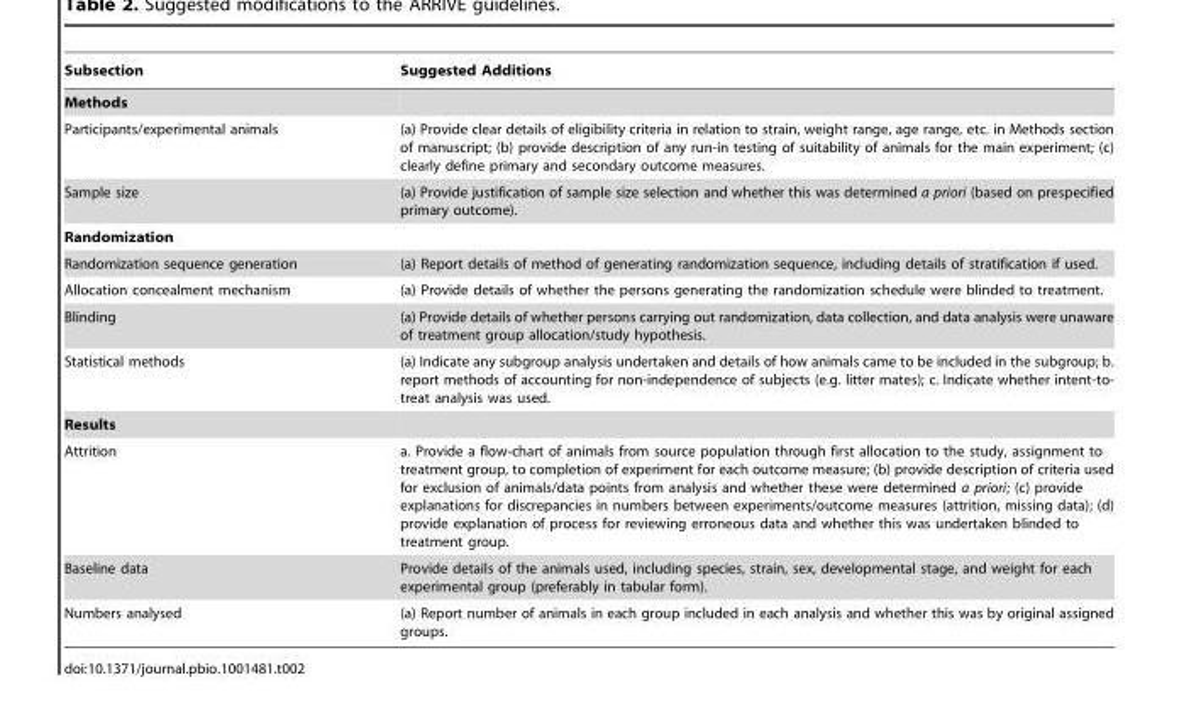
<table><thead><tr><td>Subsection</td><td>Suggested Additions</td></tr></thead><tbody><tr><td colspan="2">Methods</td></tr><tr><td>Participants/experimental animals</td><td>(a) Provide clear details of eligibility criteria in relation to strain, weight range, age range, etc. in Methods section of manuscript; (b) provide description of any run-in testing of suitability of animals for the main experiment; (c) clearly define primary and secondary outcome measures.</td></tr><tr><td>Sample size</td><td>(a) Provide justification of sample size selection and whether this was determined a priori (based on prespecified primary outcome).</td></tr><tr><td colspan="2">Randomization</td></tr><tr><td>Randomization sequence generation</td><td>(a) Report details of method of generating randomization sequence, including details of stratification if used.</td></tr><tr><td>Allocation concealment mechanism</td><td>(a) Provide details of whether the persons generating the randomization schedule were blinded to treatment.</td></tr><tr><td>Blinding</td><td>(a) Provide details of whether persons carrying out randomization, data collection, and data analysis were unaware of treatment group allocation/study hypothesis.</td></tr><tr><td>Statistical methods</td><td>(a) Indicate any subgroup analysis undertaken and details of how animals came to be included in the subgroup; b. report methods of accounting for non-independence of subjects (e.g. litter mates); c. Indicate whether intent-to- treat analysis was used.</td></tr><tr><td colspan="2">Results</td></tr><tr><td>Attrition</td><td>a. Provide a flow-chart of animals from source population through first allocation to the study, assignment to treatment group, to completion of experiment for each outcome measure; (b) provide description of criteria used for exclusion of animals/data points from analysis and whether these were determined a priori; (c) provide explanations for discrepancies in numbers between experiments/outcome measures (attrition, missing data); (d) provide explanation of process for reviewing erroneous data and whether this was undertaken blinded to treatment group.</td></tr><tr><td>Baseline data</td><td>Provide details of the animals used, including species, strain, sex, developmental stage, and weight for each experimental group (preferably in tabular form).</td></tr><tr><td>Numbers analysed</td><td>(a) Report number of animals in each group included in each analysis and whether this was by original assigned groups.</td></tr></tbody></table>